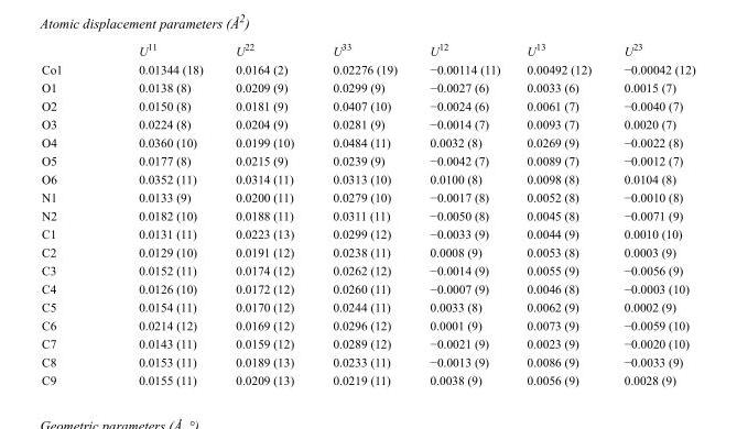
<table><thead><tr><td></td><td>U<sup>11</sup></td><td>U<sup>22</sup></td><td>U<sup>33</sup></td><td>U<sup>12</sup></td><td>U<sup>13</sup></td><td>U<sup>23</sup></td></tr></thead><tbody><tr><td>Co1</td><td>0.01344 (18)</td><td>0.0164 (2)</td><td>0.02276 (19)</td><td>−0.00114 (11)</td><td>0.00492 (12)</td><td>−0.00042 (12)</td></tr><tr><td>O1</td><td>0.0138 (8)</td><td>0.0209 (9)</td><td>0.0299 (9)</td><td>−0.0027 (6)</td><td>0.0033 (6)</td><td>0.0015 (7)</td></tr><tr><td>O2</td><td>0.0150 (8)</td><td>0.0181 (9)</td><td>0.0407 (10)</td><td>−0.0024 (6)</td><td>0.0061 (7)</td><td>−0.0040 (7)</td></tr><tr><td>O3</td><td>0.0224 (8)</td><td>0.0204 (9)</td><td>0.0281 (9)</td><td>−0.0014 (7)</td><td>0.0093 (7)</td><td>0.0020 (7)</td></tr><tr><td>O4</td><td>0.0360 (10)</td><td>0.0199 (10)</td><td>0.0484 (11)</td><td>0.0032 (8)</td><td>0.0269 (9)</td><td>−0.0022 (8)</td></tr><tr><td>O5</td><td>0.0177 (8)</td><td>0.0215 (9)</td><td>0.0239 (9)</td><td>−0.0042 (7)</td><td>0.0089 (7)</td><td>−0.0012 (7)</td></tr><tr><td>O6</td><td>0.0352 (11)</td><td>0.0314 (11)</td><td>0.0313 (10)</td><td>0.0100 (8)</td><td>0.0098 (8)</td><td>0.0104 (8)</td></tr><tr><td>N1</td><td>0.0133 (9)</td><td>0.0200 (11)</td><td>0.0279 (10)</td><td>−0.0017 (8)</td><td>0.0052 (8)</td><td>−0.0010 (8)</td></tr><tr><td>N2</td><td>0.0182 (10)</td><td>0.0188 (11)</td><td>0.0311 (11)</td><td>−0.0050 (8)</td><td>0.0045 (8)</td><td>−0.0071 (9)</td></tr><tr><td>C1</td><td>0.0131 (11)</td><td>0.0223 (13)</td><td>0.0299 (12)</td><td>−0.0033 (9)</td><td>0.0044 (9)</td><td>0.0010 (10)</td></tr><tr><td>C2</td><td>0.0129 (10)</td><td>0.0191 (12)</td><td>0.0238 (11)</td><td>0.0008 (9)</td><td>0.0053 (8)</td><td>0.0003 (9)</td></tr><tr><td>C3</td><td>0.0152 (11)</td><td>0.0174 (12)</td><td>0.0262 (12)</td><td>−0.0014 (9)</td><td>0.0055 (9)</td><td>−0.0056 (9)</td></tr><tr><td>C4</td><td>0.0126 (10)</td><td>0.0172 (12)</td><td>0.0260 (11)</td><td>−0.0007 (9)</td><td>0.0046 (8)</td><td>−0.0003 (10)</td></tr><tr><td>C5</td><td>0.0154 (11)</td><td>0.0170 (12)</td><td>0.0244 (11)</td><td>0.0033 (8)</td><td>0.0062 (9)</td><td>0.0002 (9)</td></tr><tr><td>C6</td><td>0.0214 (12)</td><td>0.0169 (12)</td><td>0.0296 (12)</td><td>0.0001 (9)</td><td>0.0073 (9)</td><td>−0.0059 (10)</td></tr><tr><td>C7</td><td>0.0143 (11)</td><td>0.0159 (12)</td><td>0.0289 (12)</td><td>−0.0021 (9)</td><td>0.0023 (9)</td><td>−0.0020 (10)</td></tr><tr><td>C8</td><td>0.0153 (11)</td><td>0.0189 (13)</td><td>0.0233 (11)</td><td>−0.0013 (9)</td><td>0.0086 (9)</td><td>−0.0033 (9)</td></tr><tr><td>C9</td><td>0.0155 (11)</td><td>0.0209 (13)</td><td>0.0219 (11)</td><td>0.0038 (9)</td><td>0.0056 (9)</td><td>0.0028 (9)</td></tr></tbody></table>